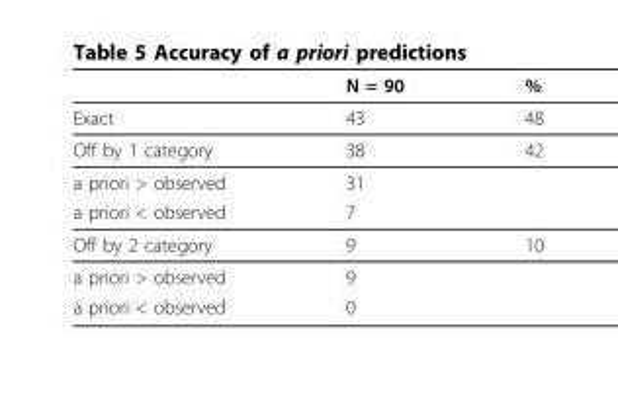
<table><thead><tr><td></td><td>N = 90</td><td>%</td></tr></thead><tbody><tr><td>Exact</td><td>43</td><td>48</td></tr><tr><td>Off by 1 category</td><td>38</td><td>42</td></tr><tr><td>a priori &gt; observed</td><td>31</td><td></td></tr><tr><td>a priori &lt; observed</td><td>7</td><td></td></tr><tr><td>Off by 2 category</td><td>9</td><td>10</td></tr><tr><td>a priori &gt; observed</td><td>9</td><td></td></tr><tr><td>a priori &lt; observed</td><td>0</td><td></td></tr></tbody></table>